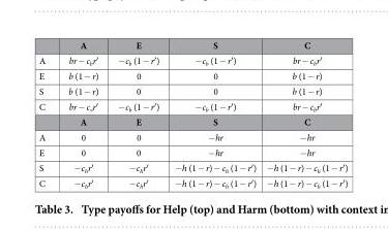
<table><thead><tr><td></td><td>A</td><td>E</td><td>S</td><td>C</td></tr></thead><tbody><tr><td>A</td><td>br − c<sub>b</sub>r′</td><td>−c<sub>b</sub> (1 − r′)</td><td>−c<sub>b</sub> (1 − r′)</td><td>br − c<sub>b</sub>r′</td></tr><tr><td>E</td><td>b (1 − r)</td><td>0</td><td>0</td><td>b (1 − r)</td></tr><tr><td>S</td><td>b (1 − r)</td><td>0</td><td>0</td><td>b (1 − r)</td></tr><tr><td rowspan="2">C</td><td>br − c<sub>v</sub>r′</td><td>−c<sub>b</sub> (1 − r′)</td><td>−c<sub>b</sub> (1 − r′)</td><td>br − c<sub>b</sub>r′</td></tr><tr><td>A</td><td>E</td><td>S</td><td>C</td></tr><tr><td>A</td><td>0</td><td>0</td><td>−hr</td><td>−hr</td></tr><tr><td>E</td><td>0</td><td>0</td><td>−hr</td><td>−hr</td></tr><tr><td>S</td><td>−c<sub>h</sub>r′</td><td>−c<sub>h</sub>r′</td><td>−h (1 − r) − c<sub>h</sub> (1 − r′)</td><td>−h (1 − r) − c<sub>h</sub> (1 − r′)</td></tr><tr><td>C</td><td>−c<sub>h</sub>r′</td><td>−c<sub>h</sub>r′</td><td>−h (1 − r) − c<sub>h</sub> (1 − r′)</td><td>−h (1 − r) − c<sub>h</sub> (1 − r′)</td></tr></tbody></table>